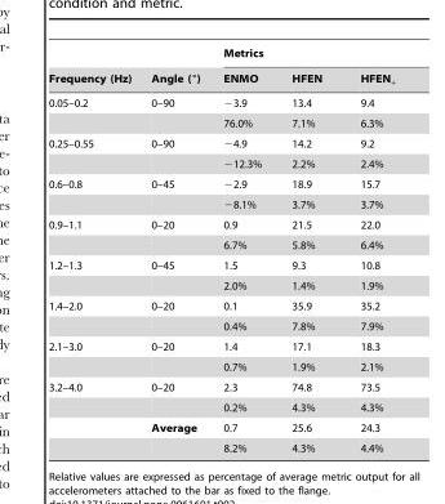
<table><thead><tr><td rowspan="2">Frequency (Hz)</td><td rowspan="2">Angle (°)</td><td colspan="3">Metrics</td></tr><tr><td>ENMO</td><td>HFEN</td><td>HFEN<sub>+</sub></td></tr></thead><tbody><tr><td rowspan="2">0.05–0.2</td><td>0–90</td><td>−3.9</td><td>13.4</td><td>9.4</td></tr><tr><td></td><td>76.0%</td><td>7.1%</td><td>6.3%</td></tr><tr><td rowspan="2">0.25–0.55</td><td>0–90</td><td>−4.9</td><td>14.2</td><td>9.2</td></tr><tr><td></td><td>−12.3%</td><td>2.2%</td><td>2.4%</td></tr><tr><td rowspan="2">0.6–0.8</td><td>0–45</td><td>−2.9</td><td>18.9</td><td>15.7</td></tr><tr><td></td><td>−8.1%</td><td>3.7%</td><td>3.7%</td></tr><tr><td rowspan="2">0.9–1.1</td><td>0–20</td><td>0.9</td><td>21.5</td><td>22.0</td></tr><tr><td></td><td>6.7%</td><td>5.8%</td><td>6.4%</td></tr><tr><td rowspan="2">1.2–1.3</td><td>0–45</td><td>1.5</td><td>9.3</td><td>10.8</td></tr><tr><td></td><td>2.0%</td><td>1.4%</td><td>1.9%</td></tr><tr><td rowspan="2">1.4–2.0</td><td>0–20</td><td>0.1</td><td>35.9</td><td>35.2</td></tr><tr><td></td><td>0.4%</td><td>7.8%</td><td>7.9%</td></tr><tr><td rowspan="2">2.1–3.0</td><td>0–20</td><td>1.4</td><td>17.1</td><td>18.3</td></tr><tr><td></td><td>0.7%</td><td>1.9%</td><td>2.1%</td></tr><tr><td rowspan="4">3.2–4.0</td><td>0–20</td><td>2.3</td><td>74.8</td><td>73.5</td></tr><tr><td></td><td>0.2%</td><td>4.3%</td><td>4.3%</td></tr><tr><td>Average</td><td>0.7</td><td>25.6</td><td>24.3</td></tr><tr><td></td><td>8.2%</td><td>4.3%</td><td>4.4%</td></tr></tbody></table>